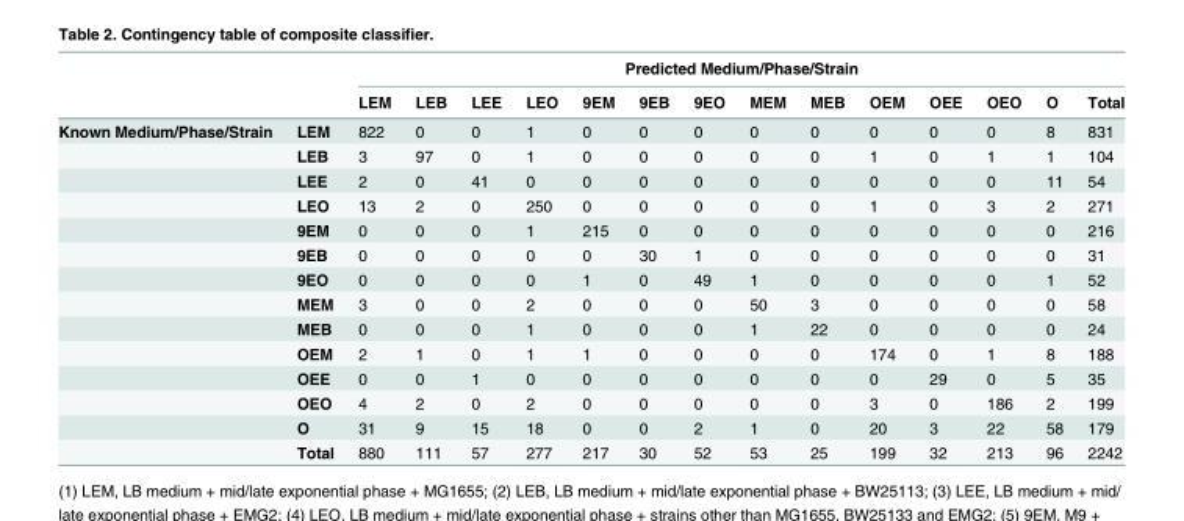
<table><thead><tr><td rowspan="2"></td><td rowspan="2"></td><td colspan="14">Predicted Medium/Phase/Strain</td></tr><tr><td>LEM</td><td>LEB</td><td>LEE</td><td>LEO</td><td>9EM</td><td>9EB</td><td>9EO</td><td>MEM</td><td>MEB</td><td>OEM</td><td>OEE</td><td>OEO</td><td>O</td><td>Total</td></tr></thead><tbody><tr><td rowspan="14">Known Medium/Phase/Strain</td><td>LEM</td><td>822</td><td>0</td><td>0</td><td>1</td><td>0</td><td>0</td><td>0</td><td>0</td><td>0</td><td>0</td><td>0</td><td>0</td><td>8</td><td>831</td></tr><tr><td>LEB</td><td>3</td><td>97</td><td>0</td><td>1</td><td>0</td><td>0</td><td>0</td><td>0</td><td>0</td><td>1</td><td>0</td><td>1</td><td>1</td><td>104</td></tr><tr><td>LEE</td><td>2</td><td>0</td><td>41</td><td>0</td><td>0</td><td>0</td><td>0</td><td>0</td><td>0</td><td>0</td><td>0</td><td>0</td><td>11</td><td>54</td></tr><tr><td>LEO</td><td>13</td><td>2</td><td>0</td><td>250</td><td>0</td><td>0</td><td>0</td><td>0</td><td>0</td><td>1</td><td>0</td><td>3</td><td>2</td><td>271</td></tr><tr><td>9EM</td><td>0</td><td>0</td><td>0</td><td>1</td><td>215</td><td>0</td><td>0</td><td>0</td><td>0</td><td>0</td><td>0</td><td>0</td><td>0</td><td>216</td></tr><tr><td>9EB</td><td>0</td><td>0</td><td>0</td><td>0</td><td>0</td><td>30</td><td>1</td><td>0</td><td>0</td><td>0</td><td>0</td><td>0</td><td>0</td><td>31</td></tr><tr><td>9EO</td><td>0</td><td>0</td><td>0</td><td>0</td><td>1</td><td>0</td><td>49</td><td>1</td><td>0</td><td>0</td><td>0</td><td>0</td><td>1</td><td>52</td></tr><tr><td>MEM</td><td>3</td><td>0</td><td>0</td><td>2</td><td>0</td><td>0</td><td>0</td><td>50</td><td>3</td><td>0</td><td>0</td><td>0</td><td>0</td><td>58</td></tr><tr><td>MEB</td><td>0</td><td>0</td><td>0</td><td>1</td><td>0</td><td>0</td><td>0</td><td>1</td><td>22</td><td>0</td><td>0</td><td>0</td><td>0</td><td>24</td></tr><tr><td>OEM</td><td>2</td><td>1</td><td>0</td><td>1</td><td>1</td><td>0</td><td>0</td><td>0</td><td>0</td><td>174</td><td>0</td><td>1</td><td>8</td><td>188</td></tr><tr><td>OEE</td><td>0</td><td>0</td><td>1</td><td>0</td><td>0</td><td>0</td><td>0</td><td>0</td><td>0</td><td>0</td><td>29</td><td>0</td><td>5</td><td>35</td></tr><tr><td>OEO</td><td>4</td><td>2</td><td>0</td><td>2</td><td>0</td><td>0</td><td>0</td><td>0</td><td>0</td><td>3</td><td>0</td><td>186</td><td>2</td><td>199</td></tr><tr><td>O</td><td>31</td><td>9</td><td>15</td><td>18</td><td>0</td><td>0</td><td>2</td><td>1</td><td>0</td><td>20</td><td>3</td><td>22</td><td>58</td><td>179</td></tr><tr><td>Total</td><td>880</td><td>111</td><td>57</td><td>277</td><td>217</td><td>30</td><td>52</td><td>53</td><td>25</td><td>199</td><td>32</td><td>213</td><td>96</td><td>2242</td></tr></tbody></table>